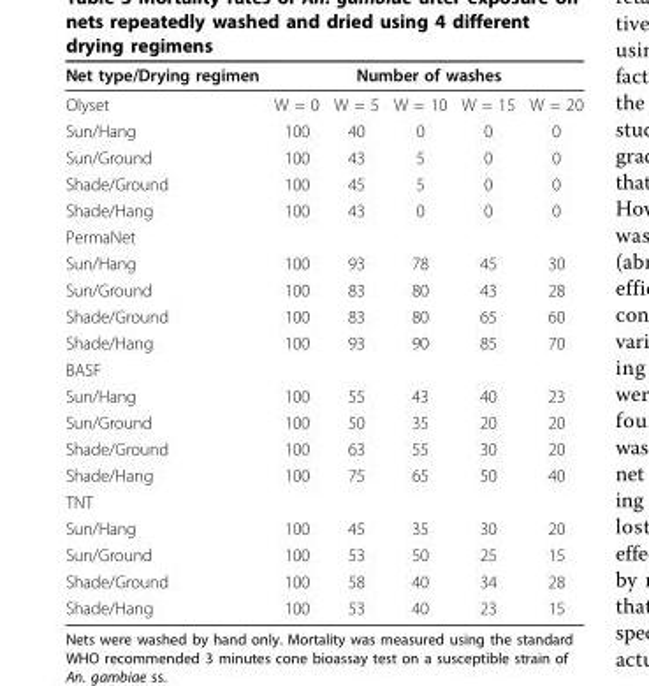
<table><thead><tr><td rowspan="2">Net type/Drying regimen Olyset</td><td colspan="5">Number of washes</td></tr><tr><td>W = 0</td><td>W = 5</td><td>W = 10</td><td>W = 15</td><td>W = 20</td></tr></thead><tbody><tr><td>Sun/Hang</td><td>100</td><td>40</td><td>0</td><td>0</td><td>0</td></tr><tr><td>Sun/Ground</td><td>100</td><td>43</td><td>5</td><td>0</td><td>0</td></tr><tr><td>Shade/Ground</td><td>100</td><td>45</td><td>5</td><td>0</td><td>0</td></tr><tr><td>Shade/Hang</td><td>100</td><td>43</td><td>0</td><td>0</td><td>0</td></tr><tr><td colspan="6">PermaNet</td></tr><tr><td>Sun/Hang</td><td>100</td><td>93</td><td>78</td><td>45</td><td>30</td></tr><tr><td>Sun/Ground</td><td>100</td><td>83</td><td>80</td><td>43</td><td>28</td></tr><tr><td>Shade/Ground</td><td>100</td><td>83</td><td>80</td><td>65</td><td>60</td></tr><tr><td>Shade/Hang</td><td>100</td><td>93</td><td>90</td><td>85</td><td>70</td></tr><tr><td colspan="6">BASF</td></tr><tr><td>Sun/Hang</td><td>100</td><td>55</td><td>43</td><td>40</td><td>23</td></tr><tr><td>Sun/Ground</td><td>100</td><td>50</td><td>35</td><td>20</td><td>20</td></tr><tr><td>Shade/Ground</td><td>100</td><td>63</td><td>55</td><td>30</td><td>20</td></tr><tr><td>Shade/Hang</td><td>100</td><td>75</td><td>65</td><td>50</td><td>40</td></tr><tr><td colspan="6">TNT</td></tr><tr><td>Sun/Hang</td><td>100</td><td>45</td><td>35</td><td>30</td><td>20</td></tr><tr><td>Sun/Ground</td><td>100</td><td>53</td><td>50</td><td>25</td><td>15</td></tr><tr><td>Shade/Ground</td><td>100</td><td>58</td><td>40</td><td>34</td><td>28</td></tr><tr><td>Shade/Hang</td><td>100</td><td>53</td><td>40</td><td>23</td><td>15</td></tr></tbody></table>